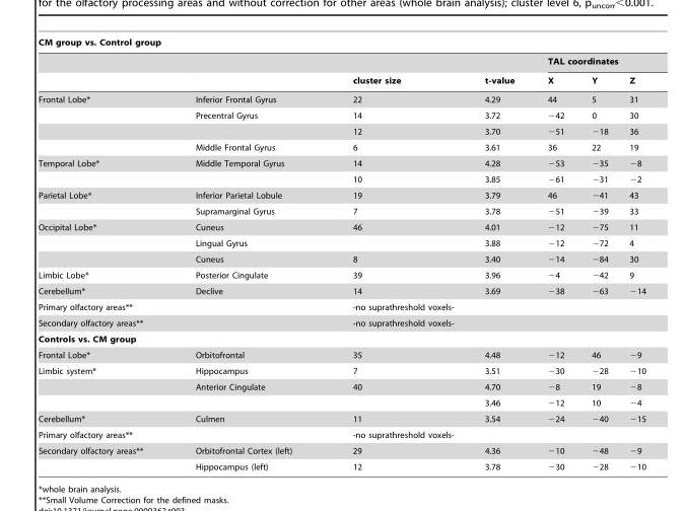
<table><thead><tr><td colspan="7">CM group vs. Control group</td></tr><tr><td rowspan="2"></td><td rowspan="2"></td><td rowspan="2">cluster size</td><td rowspan="2">t-value</td><td colspan="3">TAL coordinates</td></tr><tr><td>X</td><td>Y</td><td>Z</td></tr></thead><tbody><tr><td rowspan="4">Frontal Lobe*</td><td>Inferior Frontal Gyrus</td><td>22</td><td>4.29</td><td>44</td><td>5</td><td>31</td></tr><tr><td>Precentral Gyrus</td><td>14</td><td>3.72</td><td>−42</td><td>0</td><td>30</td></tr><tr><td></td><td>12</td><td>3.70</td><td>−51</td><td>−18</td><td>36</td></tr><tr><td>Middle Frontal Gyrus</td><td>6</td><td>3.61</td><td>36</td><td>22</td><td>19</td></tr><tr><td rowspan="2">Temporal Lobe*</td><td>Middle Temporal Gyrus</td><td>14</td><td>4.28</td><td>−53</td><td>−35</td><td>−8</td></tr><tr><td></td><td>10</td><td>3.85</td><td>−61</td><td>−31</td><td>−2</td></tr><tr><td rowspan="2">Parietal Lobe*</td><td>Inferior Parietal Lobule</td><td>19</td><td>3.79</td><td>46</td><td>−41</td><td>43</td></tr><tr><td>Supramarginal Gyrus</td><td>7</td><td>3.78</td><td>−51</td><td>−39</td><td>33</td></tr><tr><td rowspan="3">Occipital Lobe*</td><td>Cuneus</td><td>46</td><td>4.01</td><td>−12</td><td>−75</td><td>11</td></tr><tr><td>Lingual Gyrus</td><td></td><td>3.88</td><td>−12</td><td>−72</td><td>4</td></tr><tr><td>Cuneus</td><td>8</td><td>3.40</td><td>−14</td><td>−84</td><td>30</td></tr><tr><td>Limbic Lobe*</td><td>Posterior Cingulate</td><td>39</td><td>3.96</td><td>−4</td><td>−42</td><td>9</td></tr><tr><td>Cerebellum*</td><td>Declive</td><td>14</td><td>3.69</td><td>−38</td><td>−63</td><td>−14</td></tr><tr><td>Primary olfactory areas**</td><td></td><td colspan="5">-no suprathreshold voxels-</td></tr><tr><td>Secondary olfactory areas**</td><td></td><td colspan="5">-no suprathreshold voxels-</td></tr><tr><td colspan="7">Controls vs. CM group</td></tr><tr><td>Frontal Lobe*</td><td>Orbitofrontal</td><td>35</td><td>4.48</td><td>−12</td><td>46</td><td>−9</td></tr><tr><td rowspan="3">Limbic system*</td><td>Hippocampus</td><td>7</td><td>3.51</td><td>−30</td><td>−28</td><td>−10</td></tr><tr><td>Anterior Cingulate</td><td>40</td><td>4.70</td><td>−8</td><td>19</td><td>−8</td></tr><tr><td></td><td></td><td>3.46</td><td>−12</td><td>10</td><td>−4</td></tr><tr><td>Cerebellum*</td><td>Culmen</td><td>11</td><td>3.54</td><td>−24</td><td>−40</td><td>−15</td></tr><tr><td>Primary olfactory areas**</td><td></td><td colspan="5">-no suprathreshold voxels-</td></tr><tr><td rowspan="2">Secondary olfactory areas**</td><td>Orbitofrontal Cortex (left)</td><td>29</td><td>4.36</td><td>−10</td><td>−48</td><td>−9</td></tr><tr><td>Hippocampus (left)</td><td>12</td><td>3.78</td><td>−30</td><td>−28</td><td>−10</td></tr></tbody></table>